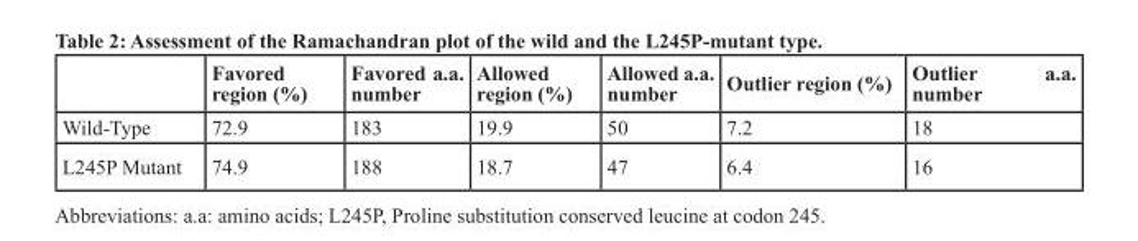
<table><thead><tr><td></td><td>Favored region (%)</td><td>Favored a.a. number</td><td>Allowed region (%)</td><td>Allowed a.a. number</td><td>Outlier region (%)</td><td>Outlier a.a. number</td></tr></thead><tbody><tr><td>Wild-Type</td><td>72.9</td><td>183</td><td>19.9</td><td>50</td><td>7.2</td><td>18</td></tr><tr><td>L245P Mutant</td><td>74.9</td><td>188</td><td>18.7</td><td>47</td><td>6.4</td><td>16</td></tr></tbody></table>